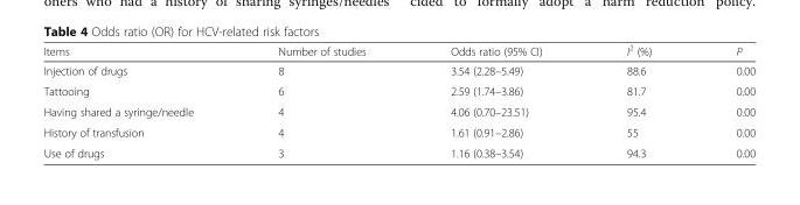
<table><thead><tr><td>Items</td><td>Number of studies</td><td>Odds ratio (95% CI)</td><td>I<sup>2</sup> (%)</td><td>P</td></tr></thead><tbody><tr><td>Injection of drugs</td><td>8</td><td>3.54 (2.28–5.49)</td><td>88.6</td><td>0.00</td></tr><tr><td>Tattooing</td><td>6</td><td>2.59 (1.74–3.86)</td><td>81.7</td><td>0.00</td></tr><tr><td>Having shared a syringe/needle</td><td>4</td><td>4.06 (0.70–23.51)</td><td>95.4</td><td>0.00</td></tr><tr><td>History of transfusion</td><td>4</td><td>1.61 (0.91–2.86)</td><td>55</td><td>0.00</td></tr><tr><td>Use of drugs</td><td>3</td><td>1.16 (0.38–3.54)</td><td>94.3</td><td>0.00</td></tr></tbody></table>